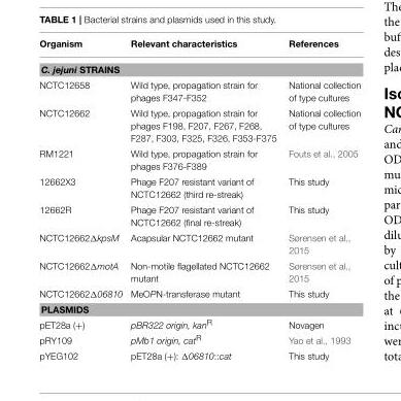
<table><thead><tr><td>Organism</td><td>Relevant characteristics</td><td>References</td></tr></thead><tbody><tr><td colspan="3">C. jejuni STRAINS</td></tr><tr><td>NCTC12658</td><td>Wild type, propagation strain for phages F347-F352</td><td>National collection of type cultures</td></tr><tr><td>NCTC12662</td><td>Wild type, propagation strain for phages F198, F207, F267, F268, F287, F303, F325, F326, F353-F375</td><td>National collection of type cultures</td></tr><tr><td>RM1221</td><td>Wild type, propagation strain for phages F376-F389</td><td>Fouts et al., 2005</td></tr><tr><td>12662X3</td><td>Phage F207 resistant variant of NCTC12662 (third re-streak)</td><td>This study</td></tr><tr><td>12662R</td><td>Phage F207 resistant variant of NCTC12662 (final re-streak)</td><td>This study</td></tr><tr><td>NCTC12662ΔkpsM</td><td>Acapsular NCTC12662 mutant</td><td>Sørensen et al., 2015</td></tr><tr><td>NCTC12662ΔmotA</td><td>Non-motile flagellated NCTC12662 mutant</td><td>Sørensen et al., 2015</td></tr><tr><td>NCTC12662Δ06810</td><td>MeOPN-transferase mutant</td><td>This study</td></tr><tr><td colspan="3">PLASMIDS</td></tr><tr><td>pET28a (+)</td><td>pBR322 origin, kan<sup>R</sup></td><td>Novagen</td></tr><tr><td>pRY109</td><td>pMb1 origin, cat<sup>R</sup></td><td>Yao et al., 1993</td></tr><tr><td>pYEG102</td><td>pET28a (+): Δ06810::cat</td><td>This study</td></tr></tbody></table>